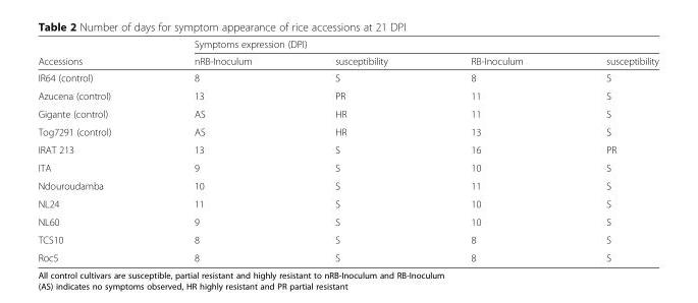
<table><thead><tr><td rowspan="2">Accessions</td><td colspan="4">Symptoms expression (DPI)</td></tr><tr><td>nRB-Inoculum</td><td>susceptibility</td><td>RB-Inoculum</td><td>susceptibility</td></tr></thead><tbody><tr><td>IR64 (control)</td><td>8</td><td>S</td><td>8</td><td>S</td></tr><tr><td>Azucena (control)</td><td>13</td><td>PR</td><td>11</td><td>S</td></tr><tr><td>Gigante (control)</td><td>AS</td><td>HR</td><td>11</td><td>S</td></tr><tr><td>Tog7291 (control)</td><td>AS</td><td>HR</td><td>13</td><td>S</td></tr><tr><td>IRAT 213</td><td>13</td><td>S</td><td>16</td><td>PR</td></tr><tr><td>ITA</td><td>9</td><td>S</td><td>10</td><td>S</td></tr><tr><td>Ndouroudamba</td><td>10</td><td>S</td><td>11</td><td>S</td></tr><tr><td>NL24</td><td>11</td><td>S</td><td>10</td><td>S</td></tr><tr><td>NL60</td><td>9</td><td>S</td><td>10</td><td>S</td></tr><tr><td>TCS10</td><td>8</td><td>S</td><td>8</td><td>S</td></tr><tr><td>Roc5</td><td>8</td><td>S</td><td>8</td><td>S</td></tr></tbody></table>